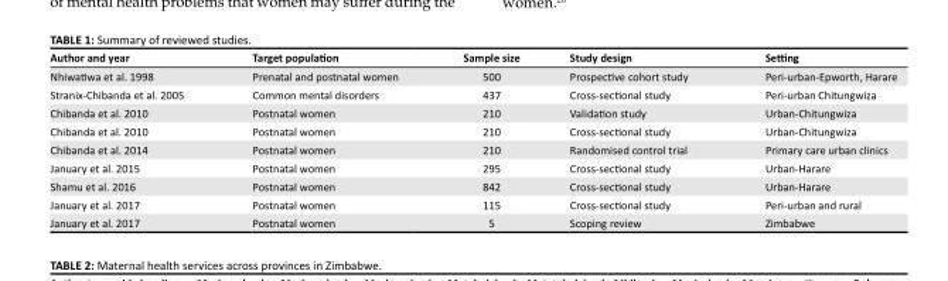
<table><thead><tr><td>Author and year</td><td>Target population</td><td>Sample size</td><td>Study design</td><td>Setting</td></tr></thead><tbody><tr><td>Nhiwatiwa et al. 1998</td><td>Prenatal and postnatal women</td><td>500</td><td>Prospective cohort study</td><td>Peri-urban-Epworth, Harare</td></tr><tr><td>Stranix-Chibanda et al. 2005</td><td>Common mental disorders</td><td>437</td><td>Cross-sectional study</td><td>Peri-urban Chitungwiza</td></tr><tr><td>Chibanda et al. 2010</td><td>Postnatal women</td><td>210</td><td>Validation study</td><td>Urban-Chitungwiza</td></tr><tr><td>Chibanda et al. 2010</td><td>Postnatal women</td><td>210</td><td>Cross-sectional study</td><td>Urban-Chitungwiza</td></tr><tr><td>Chibanda et al. 2014</td><td>Postnatal women</td><td>210</td><td>Randomised control trial</td><td>Primary care urban clinics</td></tr><tr><td>January et al. 2015</td><td>Postnatal women</td><td>295</td><td>Cross-sectional study</td><td>Urban-Harare</td></tr><tr><td>Shamu et al. 2016</td><td>Postnatal women</td><td>842</td><td>Cross-sectional study</td><td>Urban-Harare</td></tr><tr><td>January et al. 2017</td><td>Postnatal women</td><td>115</td><td>Cross-sectional study</td><td>Peri-urban and rural</td></tr><tr><td>January et al. 2017</td><td>Postnatal women</td><td>5</td><td>Scoping review</td><td>Zimbabwe</td></tr></tbody></table>